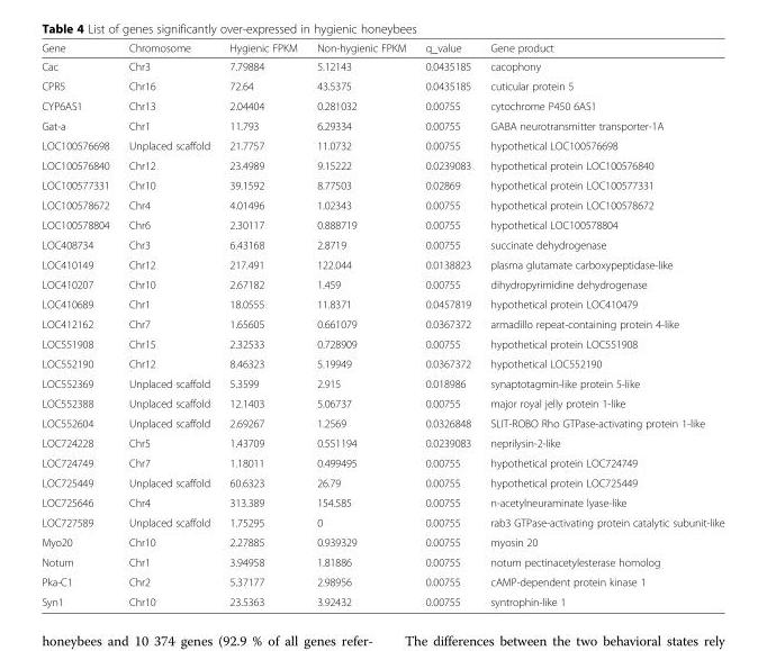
<table><thead><tr><td>Gene</td><td>Chromosome</td><td>Hygienic FPKM</td><td>Non-hygienic FPKM</td><td>q_value</td><td>Gene product</td></tr></thead><tbody><tr><td>Cac</td><td>Chr3</td><td>7.79884</td><td>5.12143</td><td>0.0435185</td><td>cacophony</td></tr><tr><td>CPR5</td><td>Chr16</td><td>72.64</td><td>43.5375</td><td>0.0435185</td><td>cuticular protein 5</td></tr><tr><td>CYP6AS1</td><td>Chr13</td><td>2.04404</td><td>0.281032</td><td>0.00755</td><td>cytochrome P450 6AS1</td></tr><tr><td>Gat-a</td><td>Chr1</td><td>11.793</td><td>6.29334</td><td>0.00755</td><td>GABA neurotransmitter transporter-1A</td></tr><tr><td>LOC100576698</td><td>Unplaced scaffold</td><td>21.7757</td><td>11.0732</td><td>0.00755</td><td>hypothetical LOC100576698</td></tr><tr><td>LOC100576840</td><td>Chr12</td><td>23.4989</td><td>9.15222</td><td>0.0239083</td><td>hypothetical protein LOC100576840</td></tr><tr><td>LOC100577331</td><td>Chr10</td><td>39.1592</td><td>8.77503</td><td>0.02869</td><td>hypothetical protein LOC100577331</td></tr><tr><td>LOC100578672</td><td>Chr4</td><td>4.01496</td><td>1.02343</td><td>0.00755</td><td>hypothetical protein LOC100578672</td></tr><tr><td>LOC100578804</td><td>Chr6</td><td>2.30117</td><td>0.888719</td><td>0.00755</td><td>hypothetical LOC100578804</td></tr><tr><td>LOC408734</td><td>Chr3</td><td>6.43168</td><td>2.8719</td><td>0.00755</td><td>succinate dehydrogenase</td></tr><tr><td>LOC410149</td><td>Chr12</td><td>217.491</td><td>122.044</td><td>0.0138823</td><td>plasma glutamate carboxypeptidase-like</td></tr><tr><td>LOC410207</td><td>Chr10</td><td>2.67182</td><td>1.459</td><td>0.00755</td><td>dihydropyrimidine dehydrogenase</td></tr><tr><td>LOC410689</td><td>Chr1</td><td>18.0555</td><td>11.8371</td><td>0.0457819</td><td>hypothetical protein LOC410479</td></tr><tr><td>LOC412162</td><td>Chr7</td><td>1.65605</td><td>0.661079</td><td>0.0367372</td><td>armadillo repeat-containing protein 4-like</td></tr><tr><td>LOC551908</td><td>Chr15</td><td>2.32533</td><td>0.728909</td><td>0.00755</td><td>hypothetical protein LOC551908</td></tr><tr><td>LOC552190</td><td>Chr12</td><td>8.46323</td><td>5.19949</td><td>0.0367372</td><td>hypothetical LOC552190</td></tr><tr><td>LOC552369</td><td>Unplaced scaffold</td><td>5.3599</td><td>2.915</td><td>0.018986</td><td>synaptotagmin-like protein 5-like</td></tr><tr><td>LOC552388</td><td>Unplaced scaffold</td><td>12.1403</td><td>5.06737</td><td>0.00755</td><td>major royal jelly protein 1-like</td></tr><tr><td>LOC552604</td><td>Unplaced scaffold</td><td>2.69267</td><td>1.2569</td><td>0.0326848</td><td>SLIT-ROBO Rho GTPase-activating protein 1-like</td></tr><tr><td>LOC724228</td><td>Chr5</td><td>1.43709</td><td>0.551194</td><td>0.0239083</td><td>neprilysin-2-like</td></tr><tr><td>LOC724749</td><td>Chr7</td><td>1.18011</td><td>0.499495</td><td>0.00755</td><td>hypothetical protein LOC724749</td></tr><tr><td>LOC725449</td><td>Unplaced scaffold</td><td>60.6323</td><td>26.79</td><td>0.00755</td><td>hypothetical protein LOC725449</td></tr><tr><td>LOC725646</td><td>Chr4</td><td>313.389</td><td>154.585</td><td>0.00755</td><td>n-acetylneuraminate lyase-like</td></tr><tr><td>LOC727589</td><td>Unplaced scaffold</td><td>1.75295</td><td>0</td><td>0.00755</td><td>rab3 GTPase-activating protein catalytic subunit-like</td></tr><tr><td>Myo20</td><td>Chr10</td><td>2.27885</td><td>0.939329</td><td>0.00755</td><td>myosin 20</td></tr><tr><td>Notum</td><td>Chr1</td><td>3.94958</td><td>1.81886</td><td>0.00755</td><td>notum pectinacetylesterase homolog</td></tr><tr><td>Pka-C1</td><td>Chr2</td><td>5.37177</td><td>2.98956</td><td>0.00755</td><td>cAMP-dependent protein kinase 1</td></tr><tr><td>Syn1</td><td>Chr10</td><td>23.5363</td><td>3.92432</td><td>0.00755</td><td>syntrophin-like 1</td></tr></tbody></table>